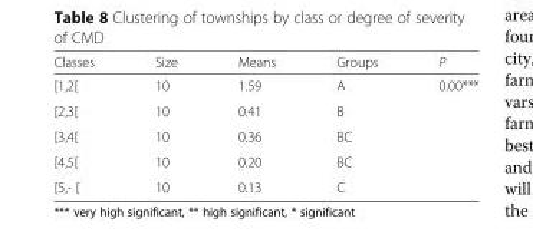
<table><thead><tr><td>Classes</td><td>Size</td><td>Means</td><td>Groups</td><td>P</td></tr></thead><tbody><tr><td>[1,2[</td><td>10</td><td>1.59</td><td>A</td><td rowspan="5">0.00***</td></tr><tr><td>[2,3[</td><td>10</td><td>0.41</td><td>B</td></tr><tr><td>[3,4[</td><td>10</td><td>0.36</td><td>BC</td></tr><tr><td>[4,5[</td><td>10</td><td>0.20</td><td>BC</td></tr><tr><td>[5,- [</td><td>10</td><td>0.13</td><td>C</td></tr></tbody></table>